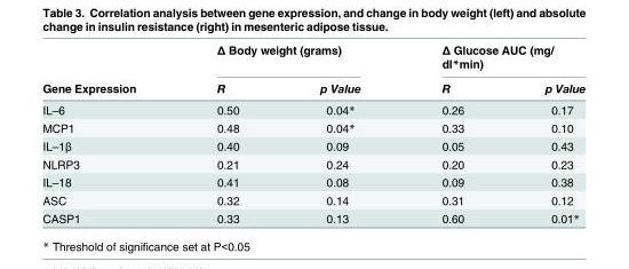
<table><thead><tr><td rowspan="2">Gene Expression</td><td colspan="2">Δ Body weight (grams)</td><td colspan="2">Δ Glucose AUC (mg/ dl*min)</td></tr><tr><td>R</td><td>p Value</td><td>R</td><td>p Value</td></tr></thead><tbody><tr><td>IL–6</td><td>0.50</td><td>0.04*</td><td>0.26</td><td>0.17</td></tr><tr><td>MCP1</td><td>0.48</td><td>0.04*</td><td>0.33</td><td>0.10</td></tr><tr><td>IL–1β</td><td>0.40</td><td>0.09</td><td>0.05</td><td>0.43</td></tr><tr><td>NLRP3</td><td>0.21</td><td>0.24</td><td>0.20</td><td>0.23</td></tr><tr><td>IL–18</td><td>0.41</td><td>0.08</td><td>0.09</td><td>0.38</td></tr><tr><td>ASC</td><td>0.32</td><td>0.14</td><td>0.31</td><td>0.12</td></tr><tr><td>CASP1</td><td>0.33</td><td>0.13</td><td>0.60</td><td>0.01*</td></tr></tbody></table>